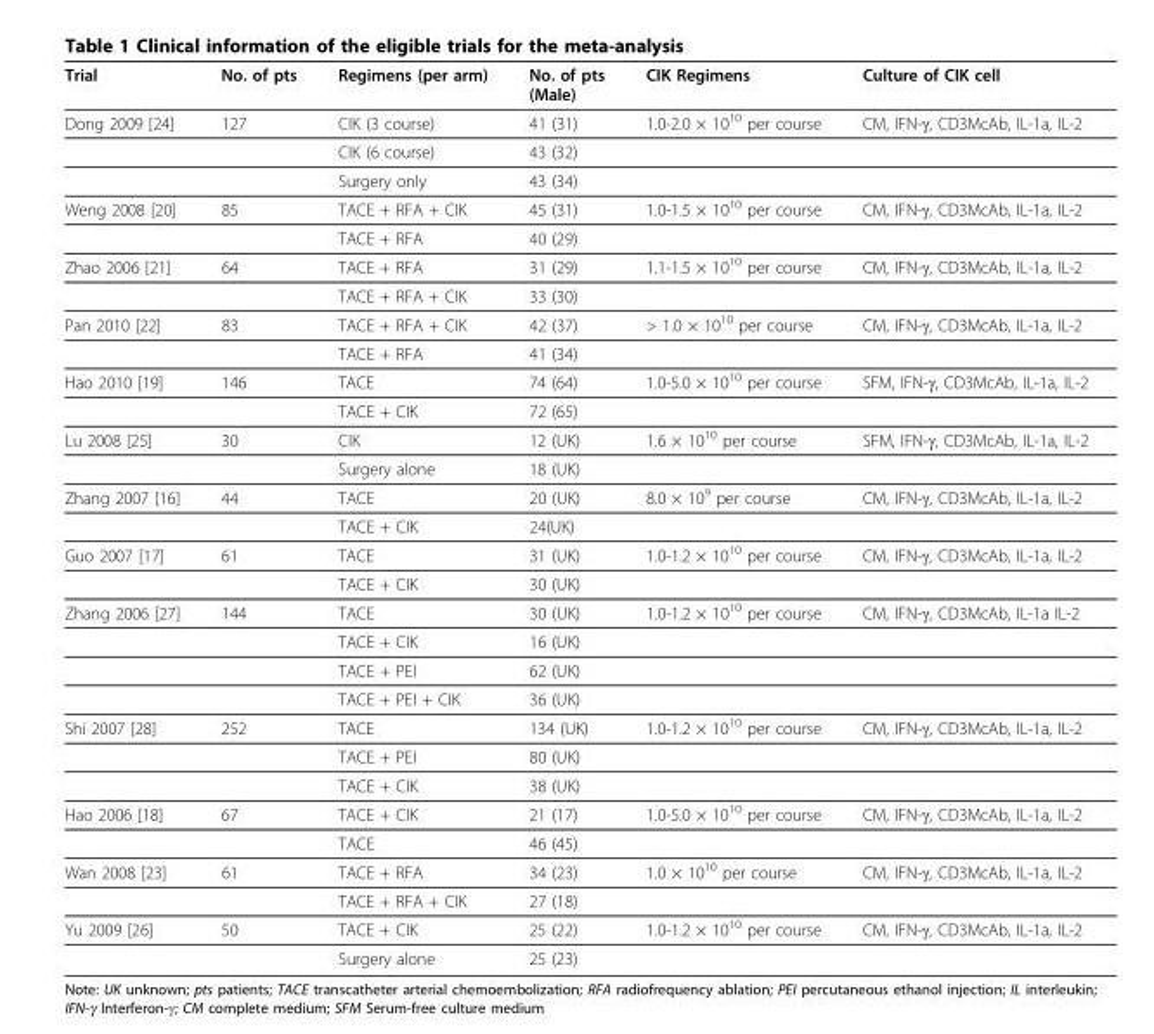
<table><thead><tr><td>Trial</td><td>No. of pts</td><td>Regimens (per arm)</td><td>No. of pts (Male)</td><td>CIK Regimens</td><td>Culture of CIK cell</td></tr></thead><tbody><tr><td rowspan="3">Dong 2009 [24]</td><td>127</td><td>CIK (3 course)</td><td>41 (31)</td><td>1.0-2.0 × 10<sup>10</sup> per course</td><td>CM, IFN-γ, CD3McAb, IL-1a, IL-2</td></tr><tr><td></td><td>CIK (6 course)</td><td>43 (32)</td><td></td><td></td></tr><tr><td></td><td>Surgery only</td><td>43 (34)</td><td></td><td></td></tr><tr><td rowspan="2">Weng 2008 [20]</td><td>85</td><td>TACE + RFA + CIK</td><td>45 (31)</td><td>1.0-1.5 × 10<sup>10</sup> per course</td><td>CM, IFN-γ, CD3McAb, IL-1a, IL-2</td></tr><tr><td></td><td>TACE + RFA</td><td>40 (29)</td><td></td><td></td></tr><tr><td rowspan="2">Zhao 2006 [21]</td><td>64</td><td>TACE + RFA</td><td>31 (29)</td><td>1.1-1.5 × 10<sup>10</sup> per course</td><td>CM, IFN-γ, CD3McAb, IL-1a, IL-2</td></tr><tr><td></td><td>TACE + RFA + CIK</td><td>33 (30)</td><td></td><td></td></tr><tr><td rowspan="2">Pan 2010 [22]</td><td>83</td><td>TACE + RFA + CIK</td><td>42 (37)</td><td>&gt; 1.0 × 10<sup>10</sup> per course</td><td>CM, IFN-γ, CD3McAb, IL-1a, IL-2</td></tr><tr><td></td><td>TACE + RFA</td><td>41 (34)</td><td></td><td></td></tr><tr><td rowspan="2">Hao 2010 [19]</td><td>146</td><td>TACE</td><td>74 (64)</td><td>1.0-5.0 × 10<sup>10</sup> per course</td><td>SFM, IFN-γ, CD3McAb, IL-1a, IL-2</td></tr><tr><td></td><td>TACE + CIK</td><td>72 (65)</td><td></td><td></td></tr><tr><td rowspan="2">Lu 2008 [25]</td><td>30</td><td>CIK</td><td>12 (UK)</td><td>1.6 × 10<sup>10</sup> per course</td><td>SFM, IFN-γ, CD3McAb, IL-1a, IL-2</td></tr><tr><td></td><td>Surgery alone</td><td>18 (UK)</td><td></td><td></td></tr><tr><td rowspan="2">Zhang 2007 [16]</td><td>44</td><td>TACE</td><td>20 (UK)</td><td>8.0 × 10<sup>9</sup> per course</td><td>CM, IFN-γ, CD3McAb, IL-1a, IL-2</td></tr><tr><td></td><td>TACE + CIK</td><td>24(UK)</td><td></td><td></td></tr><tr><td rowspan="2">Guo 2007 [17]</td><td>61</td><td>TACE</td><td>31 (UK)</td><td>1.0-1.2 × 10<sup>10</sup> per course</td><td>CM, IFN-γ, CD3McAb, IL-1a, IL-2</td></tr><tr><td></td><td>TACE + CIK</td><td>30 (UK)</td><td></td><td></td></tr><tr><td rowspan="4">Zhang 2006 [27]</td><td>144</td><td>TACE</td><td>30 (UK)</td><td>1.0-1.2 × 10<sup>10</sup> per course</td><td>CM, IFN-γ, CD3McAb, IL-1a IL-2</td></tr><tr><td></td><td>TACE + CIK</td><td>16 (UK)</td><td></td><td></td></tr><tr><td></td><td>TACE + PEI</td><td>62 (UK)</td><td></td><td></td></tr><tr><td></td><td>TACE + PEI + CIK</td><td>36 (UK)</td><td></td><td></td></tr><tr><td rowspan="3">Shi 2007 [28]</td><td>252</td><td>TACE</td><td>134 (UK)</td><td>1.0-1.2 × 10<sup>10</sup> per course</td><td>CM, IFN-γ, CD3McAb, IL-1a, IL-2</td></tr><tr><td></td><td>TACE + PEI</td><td>80 (UK)</td><td></td><td></td></tr><tr><td></td><td>TACE + CIK</td><td>38 (UK)</td><td></td><td></td></tr><tr><td rowspan="2">Hao 2006 [18]</td><td>67</td><td>TACE + CIK</td><td>21 (17)</td><td>1.0-5.0 × 10<sup>10</sup> per course</td><td>CM, IFN-γ, CD3McAb, IL-1a, IL-2</td></tr><tr><td></td><td>TACE</td><td>46 (45)</td><td></td><td></td></tr><tr><td rowspan="2">Wan 2008 [23]</td><td>61</td><td>TACE + RFA</td><td>34 (23)</td><td>1.0 × 10<sup>10</sup> per course</td><td>CM, IFN-γ, CD3McAb, IL-1a, IL-2</td></tr><tr><td></td><td>TACE + RFA + CIK</td><td>27 (18)</td><td></td><td></td></tr><tr><td rowspan="2">Yu 2009 [26]</td><td>50</td><td>TACE + CIK</td><td>25 (22)</td><td>1.0-1.2 × 10<sup>10</sup> per course</td><td>CM, IFN-γ, CD3McAb, IL-1a, IL-2</td></tr><tr><td></td><td>Surgery alone</td><td>25 (23)</td><td></td><td></td></tr></tbody></table>